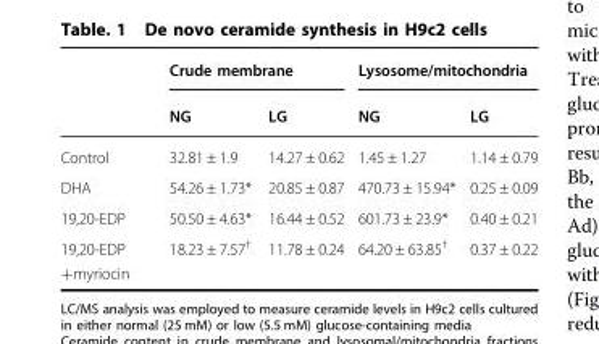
<table><thead><tr><td rowspan="2"></td><td colspan="2">Crude membrane</td><td colspan="2">Lysosome/mitochondria</td></tr><tr><td>NG</td><td>LG</td><td>NG</td><td>LG</td></tr></thead><tbody><tr><td>Control</td><td>32.81 ± 1.9</td><td>14.27 ± 0.62</td><td>1.45 ± 1.27</td><td>1.14 ± 0.79</td></tr><tr><td>DHA</td><td>54.26 ± 1.73*</td><td>20.85 ± 0.87</td><td>470.73 ± 15.94*</td><td>0.25 ± 0.09</td></tr><tr><td>19,20-EDP</td><td>50.50 ± 4.63*</td><td>16.44 ± 0.52</td><td>601.73 ± 23.9*</td><td>0.40 ± 0.21</td></tr><tr><td>19,20-EDP +myriocin</td><td>18.23 ± 7.57<sup>†</sup></td><td>11.78 ± 0.24</td><td>64.20 ± 63.85<sup>†</sup></td><td>0.37 ± 0.22</td></tr></tbody></table>